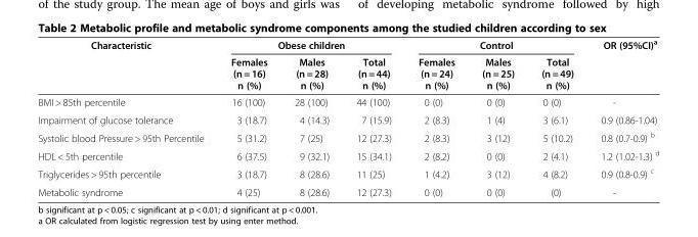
<table><thead><tr><td rowspan="2">Characteristic</td><td colspan="3">Obese children</td><td colspan="3">Control</td><td rowspan="2">OR (95%CI)<sup>a</sup></td></tr><tr><td>Females (n = 16) n (%)</td><td>Males (n = 28) n (%)</td><td>Total (n = 44) n (%)</td><td>Females (n = 24) n (%)</td><td>Males (n = 25) n (%)</td><td>Total (n = 49) n (%)</td></tr></thead><tbody><tr><td>BMI &gt; 85th percentile</td><td>16 (100)</td><td>28 (100)</td><td>44 (100)</td><td>0 (0)</td><td>0 (0)</td><td>0 (0)</td><td>-</td></tr><tr><td>Impairment of glucose tolerance</td><td>3 (18.7)</td><td>4 (14.3)</td><td>7 (15.9)</td><td>2 (8.3)</td><td>1 (4)</td><td>3 (6.1)</td><td>0.9 (0.86-1.04)</td></tr><tr><td>Systolic blood Pressure &gt; 95th Percentile</td><td>5 (31.2)</td><td>7 (25)</td><td>12 (27.3)</td><td>2 (8.3)</td><td>3 (12)</td><td>5 (10.2)</td><td>0.8 (0.7-0.9) <sup>b</sup></td></tr><tr><td>HDL &lt; 5th percentile</td><td>6 (37.5)</td><td>9 (32.1)</td><td>15 (34.1)</td><td>2 (8.2)</td><td>0 (0)</td><td>2 (4.1)</td><td>1.2 (1.02-1.3) <sup>d</sup></td></tr><tr><td>Triglycerides &gt; 95th percentile</td><td>3 (18.7)</td><td>8 (28.6)</td><td>11 (25)</td><td>1 (4.2)</td><td>3 (12)</td><td>4 (8.2)</td><td>0.9 (0.8-0.9) <sup>c</sup></td></tr><tr><td>Metabolic syndrome</td><td>4 (25)</td><td>8 (28.6)</td><td>12 (27.3)</td><td>0 (0)</td><td>0 (0)</td><td>(0)</td><td>-</td></tr></tbody></table>